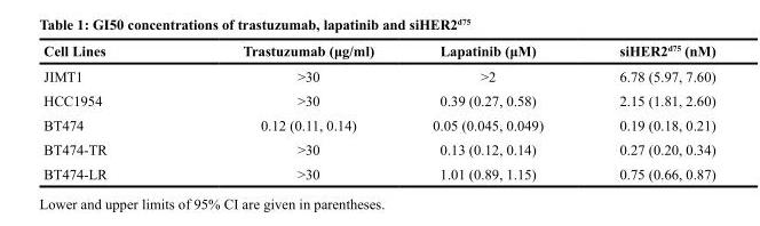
<table><thead><tr><td>Cell Lines</td><td>Trastuzumab (μg/ml)</td><td>Lapatinib (μM)</td><td>siHER2<sup>d75</sup> (nM)</td></tr></thead><tbody><tr><td>JIMT1</td><td>&gt;30</td><td>&gt;2</td><td>6.78 (5.97, 7.60)</td></tr><tr><td>HCC1954</td><td>&gt;30</td><td>0.39 (0.27, 0.58)</td><td>2.15 (1.81, 2.60)</td></tr><tr><td>BT474</td><td>0.12 (0.11, 0.14)</td><td>0.05 (0.045, 0.049)</td><td>0.19 (0.18, 0.21)</td></tr><tr><td>BT474-TR</td><td>&gt;30</td><td>0.13 (0.12, 0.14)</td><td>0.27 (0.20, 0.34)</td></tr><tr><td>BT474-LR</td><td>&gt;30</td><td>1.01 (0.89, 1.15)</td><td>0.75 (0.66, 0.87)</td></tr></tbody></table>